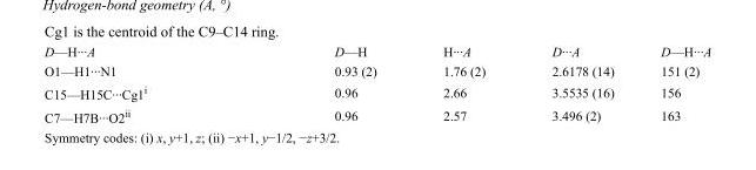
<table><tbody><tr><td>D—H···A</td><td>D—H</td><td>H···A</td><td>D···A</td><td>D—H···A</td></tr><tr><td>O1—H1···N1</td><td>0.93 (2)</td><td>1.76 (2)</td><td>2.6178 (14)</td><td>151 (2)</td></tr><tr><td>C15—H15C···Cg1<sup>i</sup></td><td>0.96</td><td>2.66</td><td>3.5535 (16)</td><td>156</td></tr><tr><td>C7—H7B···O2<sup>ii</sup></td><td>0.96</td><td>2.57</td><td>3.496 (2)</td><td>163</td></tr></tbody></table>